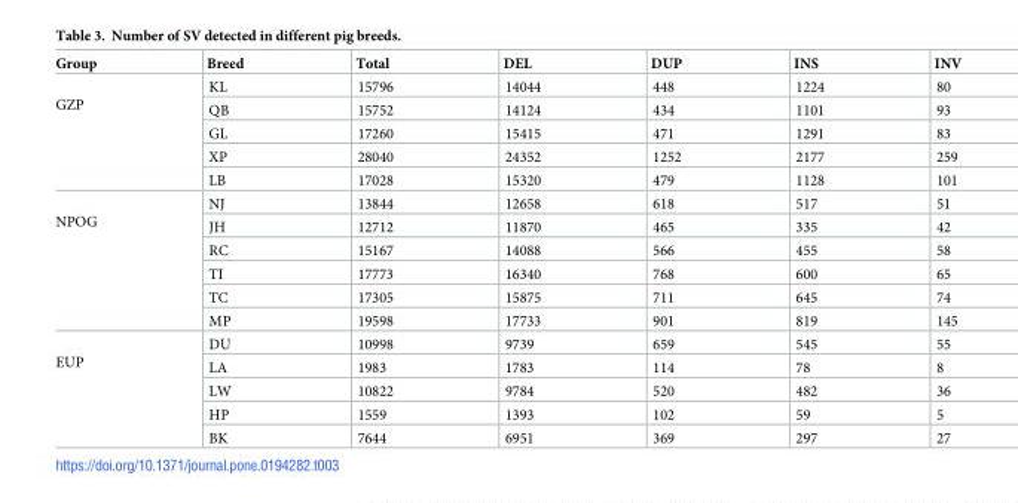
<table><thead><tr><td>Group</td><td>Breed</td><td>Total</td><td>DEL</td><td>DUP</td><td>INS</td><td>INV</td></tr></thead><tbody><tr><td rowspan="5">GZP</td><td>KL</td><td>15796</td><td>14044</td><td>448</td><td>1224</td><td>80</td></tr><tr><td>QB</td><td>15752</td><td>14124</td><td>434</td><td>1101</td><td>93</td></tr><tr><td>GL</td><td>17260</td><td>15415</td><td>471</td><td>1291</td><td>83</td></tr><tr><td>XP</td><td>28040</td><td>24352</td><td>1252</td><td>2177</td><td>259</td></tr><tr><td>LB</td><td>17028</td><td>15320</td><td>479</td><td>1128</td><td>101</td></tr><tr><td rowspan="6">NPOG</td><td>NJ</td><td>13844</td><td>12658</td><td>618</td><td>517</td><td>51</td></tr><tr><td>JH</td><td>12712</td><td>11870</td><td>465</td><td>335</td><td>42</td></tr><tr><td>RC</td><td>15167</td><td>14088</td><td>566</td><td>455</td><td>58</td></tr><tr><td>TI</td><td>17773</td><td>16340</td><td>768</td><td>600</td><td>65</td></tr><tr><td>TC</td><td>17305</td><td>15875</td><td>711</td><td>645</td><td>74</td></tr><tr><td>MP</td><td>19598</td><td>17733</td><td>901</td><td>819</td><td>145</td></tr><tr><td rowspan="5">EUP</td><td>DU</td><td>10998</td><td>9739</td><td>659</td><td>545</td><td>55</td></tr><tr><td>LA</td><td>1983</td><td>1783</td><td>114</td><td>78</td><td>8</td></tr><tr><td>LW</td><td>10822</td><td>9784</td><td>520</td><td>482</td><td>36</td></tr><tr><td>HP</td><td>1559</td><td>1393</td><td>102</td><td>59</td><td>5</td></tr><tr><td>BK</td><td>7644</td><td>6951</td><td>369</td><td>297</td><td>27</td></tr></tbody></table>